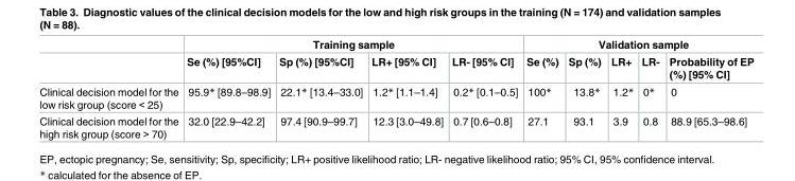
<table><thead><tr><td rowspan="2"></td><td colspan="4">Training sample</td><td colspan="5">Validation sample</td></tr><tr><td>Se (%) [95%CI]</td><td>Sp (%) [95%CI]</td><td>LR+ [95% CI]</td><td>LR- [95% CI]</td><td>Se (%)</td><td>Sp (%)</td><td>LR+</td><td>LR-</td><td>Probability of EP (%) [95% CI]</td></tr></thead><tbody><tr><td>Clinical decision model for the low risk group (score &lt; 25)</td><td>95.9* [89.8–98.9]</td><td>22.1* [13.4–33.0]</td><td>1.2* [1.1–1.4]</td><td>0.2* [0.1–0.5]</td><td>100*</td><td>13.8*</td><td>1.2*</td><td>0*</td><td>0</td></tr><tr><td>Clinical decision model for the high risk group (score &gt; 70)</td><td>32.0 [22.9–42.2]</td><td>97.4 [90.9–99.7]</td><td>12.3 [3.0–49.8]</td><td>0.7 [0.6–0.8]</td><td>27.1</td><td>93.1</td><td>3.9</td><td>0.8</td><td>88.9 [65.3–98.6]</td></tr></tbody></table>